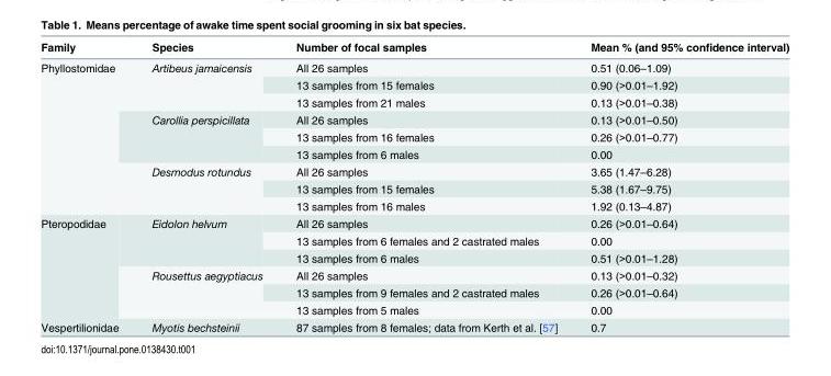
<table><thead><tr><td>Family</td><td>Species</td><td>Number of focal samples</td><td>Mean % (and 95% confidence interval)</td></tr></thead><tbody><tr><td rowspan="9">Phyllostomidae</td><td rowspan="3">Artibeus jamaicensis</td><td>All 26 samples</td><td>0.51 (0.06–1.09)</td></tr><tr><td>13 samples from 15 females</td><td>0.90 (&gt;0.01–1.92)</td></tr><tr><td>13 samples from 21 males</td><td>0.13 (&gt;0.01–0.38)</td></tr><tr><td rowspan="3">Carollia perspicillata</td><td>All 26 samples</td><td>0.13 (&gt;0.01–0.50)</td></tr><tr><td>13 samples from 16 females</td><td>0.26 (&gt;0.01–0.77)</td></tr><tr><td>13 samples from 6 males</td><td>0.00</td></tr><tr><td rowspan="3">Desmodus rotundus</td><td>All 26 samples</td><td>3.65 (1.47–6.28)</td></tr><tr><td>13 samples from 15 females</td><td>5.38 (1.67–9.75)</td></tr><tr><td>13 samples from 16 males</td><td>1.92 (0.13–4.87)</td></tr><tr><td rowspan="6">Pteropodidae</td><td rowspan="3">Eidolon helvum</td><td>All 26 samples</td><td>0.26 (&gt;0.01–0.64)</td></tr><tr><td>13 samples from 6 females and 2 castrated males</td><td>0.00</td></tr><tr><td>13 samples from 6 males</td><td>0.51 (&gt;0.01–1.28)</td></tr><tr><td rowspan="3">Rousettus aegyptiacus</td><td>All 26 samples</td><td>0.13 (&gt;0.01–0.32)</td></tr><tr><td>13 samples from 9 females and 2 castrated males</td><td>0.26 (&gt;0.01–0.64)</td></tr><tr><td>13 samples from 5 males</td><td>0.00</td></tr><tr><td>Vespertilionidae</td><td>Myotis bechsteinii</td><td>87 samples from 8 females; data from Kerth et al. [57]</td><td>0.7</td></tr></tbody></table>